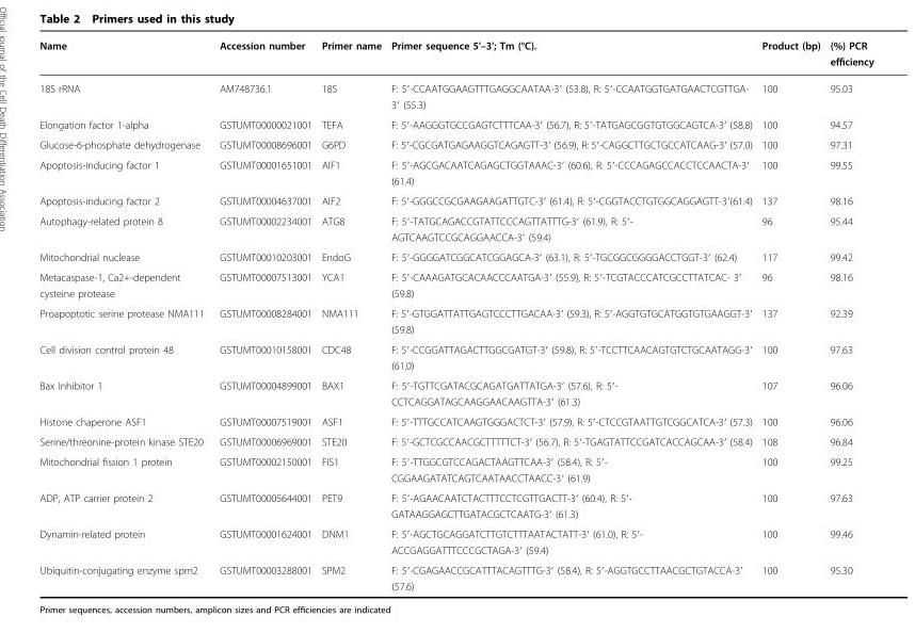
<table><thead><tr><td>Name</td><td>Accession number</td><td>Primer name</td><td>Primer sequence 5&#x27;–3&#x27;; Tm (°C).</td><td>Product (bp)</td><td>(%) PCR efficiency</td></tr></thead><tbody><tr><td>18S rRNA</td><td>AM748736.1</td><td>18S</td><td>F: 5′-CCAATGGAAGTTTGAGGCAATAA-3′ (53.8), R: 5′-CCAATGGTGATGAACTCGTTGA- 3′ (55.3)</td><td>100</td><td>95.03</td></tr><tr><td>Elongation factor 1-alpha</td><td>GSTUMT00000021001</td><td>TEFA</td><td>F: 5′-AAGGGTGCCGAGTCTTTCAA-3′ (56.7), R: 5′-TATGAGCGGTGTGGCAGTCA-3′ (58.8)</td><td>100</td><td>94.57</td></tr><tr><td>Glucose-6-phosphate dehydrogenase</td><td>GSTUMT00008696001</td><td>G6PD</td><td>F: 5′-CGCGATGAGAAGGTCAGAGTT-3′ (56.9), R: 5′-CAGGCTTGCTGCCATCAAG-3′ (57.0)</td><td>100</td><td>97.31</td></tr><tr><td>Apoptosis-inducing factor 1</td><td>GSTUMT00001651001</td><td>AIF1</td><td>F: 5′-AGCGACAATCAGAGCTGGTAAAC-3′ (60.6), R: 5′-CCCAGAGCCACCTCCAACTA-3′ (61.4)</td><td>100</td><td>99.55</td></tr><tr><td>Apoptosis-inducing factor 2</td><td>GSTUMT00004637001</td><td>AIF2</td><td>F: 5′-GGGCCGCGAAGAAGATTGTC-3′ (61.4), R: 5′-CGGTACCTGTGGCAGGAGTT-3′(61.4)</td><td>137</td><td>98.16</td></tr><tr><td>Autophagy-related protein 8</td><td>GSTUMT00002234001</td><td>ATG8</td><td>F: 5′-TATGCAGACCGTATTCCCAGTTATTTG-3′ (61.9), R: 5′- AGTCAAGTCCGCAGGAACCA-3′ (59.4)</td><td>96</td><td>95.44</td></tr><tr><td>Mitochondrial nuclease</td><td>GSTUMT00010203001</td><td>EndoG</td><td>F: 5′-GGGGATCGGCATCGGAGCA-3′ (63.1), R: 5′-TGCGGCGGGGACCTGGT-3′ (62.4)</td><td>117</td><td>99.42</td></tr><tr><td>Metacaspase-1, Ca2+-dependent cysteine protease</td><td>GSTUMT00007513001</td><td>YCA1</td><td>F: 5′-CAAAGATGCACAACCCAATGA-3′ (55.9), R: 5′-TCGTACCCATCGCCTTATCAC- 3′ (59.8)</td><td>96</td><td>98.16</td></tr><tr><td>Proapoptotic serine protease NMA111</td><td>GSTUMT00008284001</td><td>NMA111</td><td>F: 5′-GTGGATTATTGAGTCCCTTGACAA-3′ (59.3), R: 5′-AGGTGTGCATGGTGTGAAGGT-3′ (59.8)</td><td>137</td><td>92.39</td></tr><tr><td>Cell division control protein 48</td><td>GSTUMT00010158001</td><td>CDC48</td><td>F: 5′-CCGGATTAGACTTGGCGATGT-3′ (59.8), R: 5′-TCCTTCAACAGTGTCTGCAATAGG-3′ (61.0)</td><td>100</td><td>97.63</td></tr><tr><td>Bax Inhibitor 1</td><td>GSTUMT00004899001</td><td>BAX1</td><td>F: 5′-TGTTCGATACGCAGATGATTATGA-3′ (57.6), R: 5′- CCTCAGGATAGCAAGGAACAAGTTA-3′ (61.3)</td><td>107</td><td>96.06</td></tr><tr><td>Histone chaperone ASF1</td><td>GSTUMT00007519001</td><td>ASF1</td><td>F: 5′-TTTGCCATCAAGTGGGACTCT-3′ (57.9), R: 5′-CTCCGTAATTGTCGGCATCA-3′ (57.3)</td><td>100</td><td>96.06</td></tr><tr><td>Serine/threonine-protein kinase STE20</td><td>GSTUMT00006969001</td><td>STE20</td><td>F: 5′-GCTCGCCAACGCTTTTTCT-3′ (56.7), R: 5′-TGAGTATTCCGATCACCAGCAA-3′ (58.4)</td><td>108</td><td>96.84</td></tr><tr><td>Mitochondrial fission 1 protein</td><td>GSTUMT00002150001</td><td>FIS1</td><td>F: 5′-TTGGCGTCCAGACTAAGTTCAA-3′ (58.4), R: 5′- CGGAAGATATCAGTCAATAACCTAACC-3′ (61.9)</td><td>100</td><td>99.25</td></tr><tr><td>ADP, ATP carrier protein 2</td><td>GSTUMT00005644001</td><td>PET9</td><td>F: 5′-AGAACAATCTACTTTCCTCGTTGACTT-3′ (60.4), R: 5′- GATAAGGAGCTTGATACGCTCAATG-3′ (61.3)</td><td>100</td><td>97.63</td></tr><tr><td>Dynamin-related protein</td><td>GSTUMT00001624001</td><td>DNM1</td><td>F: 5′-AGCTGCAGGATCTTGTCTTTAATACTATT-3′ (61.0), R: 5′- ACCGAGGATTTCCCGCTAGA-3′ (59.4)</td><td>100</td><td>99.46</td></tr><tr><td>Ubiquitin-conjugating enzyme spm2</td><td>GSTUMT00003288001</td><td>SPM2</td><td>F: 5′-CGAGAACCGCATTTACAGTTTG-3′ (58.4), R: 5′-AGGTGCCTTAACGCTGTACCA-3′ (57.6)</td><td>100</td><td>95.30</td></tr></tbody></table>